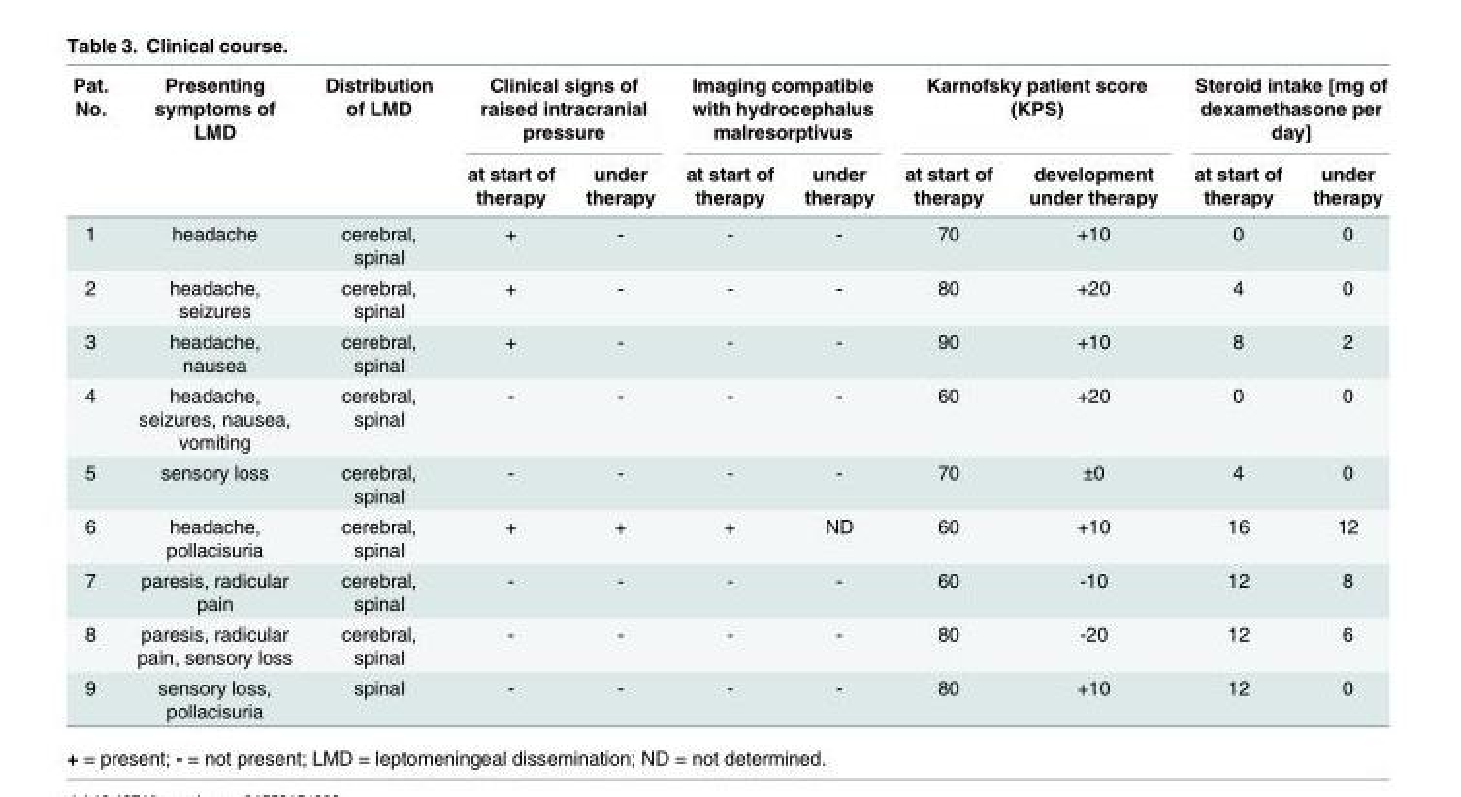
<table><thead><tr><td rowspan="2">Pat. No.</td><td rowspan="2">Presenting symptoms of LMD</td><td rowspan="2">Distribution of LMD</td><td colspan="2">Clinical signs of raised intracranial pressure</td><td colspan="2">Imaging compatible with hydrocephalus malresorptivus</td><td colspan="2">Karnofsky patient score (KPS)</td><td colspan="2">Steroid intake [mg of dexamethasone per day]</td></tr><tr><td>at start of therapy</td><td>under therapy</td><td>at start of therapy</td><td>under therapy</td><td>at start of therapy</td><td>development under therapy</td><td>at start of therapy</td><td>under therapy</td></tr></thead><tbody><tr><td>1</td><td>headache</td><td>cerebral, spinal</td><td>+</td><td>-</td><td>-</td><td>-</td><td>70</td><td>+10</td><td>0</td><td>0</td></tr><tr><td>2</td><td>headache, seizures</td><td>cerebral, spinal</td><td>+</td><td>-</td><td>-</td><td>-</td><td>80</td><td>+20</td><td>4</td><td>0</td></tr><tr><td>3</td><td>headache, nausea</td><td>cerebral, spinal</td><td>+</td><td>-</td><td>-</td><td>-</td><td>90</td><td>+10</td><td>8</td><td>2</td></tr><tr><td>4</td><td>headache, seizures, nausea, vomiting</td><td>cerebral, spinal</td><td>-</td><td>-</td><td>-</td><td>-</td><td>60</td><td>+20</td><td>0</td><td>0</td></tr><tr><td>5</td><td>sensory loss</td><td>cerebral, spinal</td><td>-</td><td>-</td><td>-</td><td>-</td><td>70</td><td>±0</td><td>4</td><td>0</td></tr><tr><td>6</td><td>headache, pollacisuria</td><td>cerebral, spinal</td><td>+</td><td>+</td><td>+</td><td>ND</td><td>60</td><td>+10</td><td>16</td><td>12</td></tr><tr><td>7</td><td>paresis, radicular pain</td><td>cerebral, spinal</td><td>-</td><td>-</td><td>-</td><td>-</td><td>60</td><td>-10</td><td>12</td><td>8</td></tr><tr><td>8</td><td>paresis, radicular pain, sensory loss</td><td>cerebral, spinal</td><td>-</td><td>-</td><td>-</td><td>-</td><td>80</td><td>-20</td><td>12</td><td>6</td></tr><tr><td>9</td><td>sensory loss, pollacisuria</td><td>spinal</td><td>-</td><td>-</td><td>-</td><td>-</td><td>80</td><td>+10</td><td>12</td><td>0</td></tr></tbody></table>